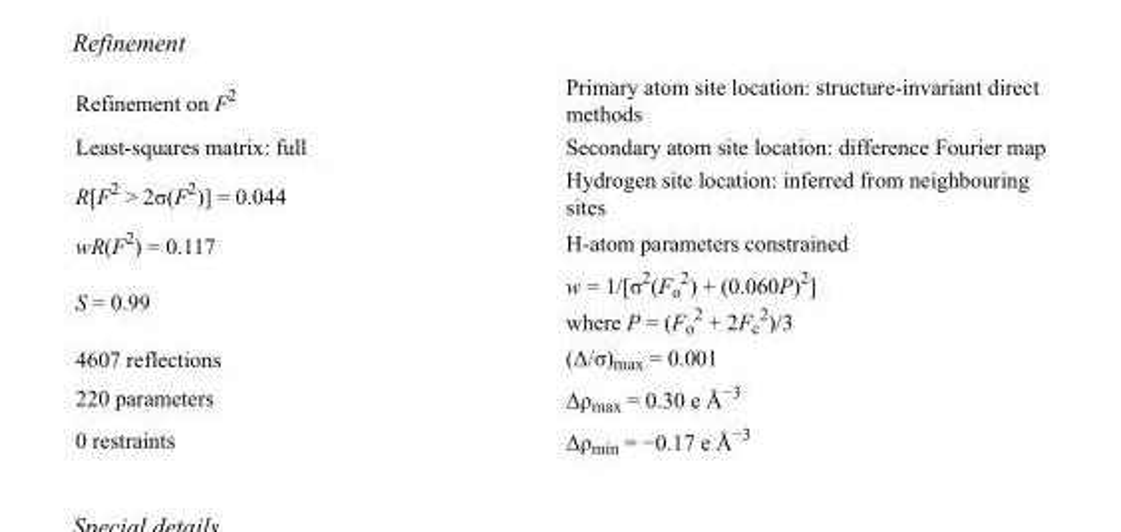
<table><tbody><tr><td>Refinement on F<sup>2</sup></td><td>Primary atom site location: structure-invariant direct methods</td></tr><tr><td>Least-squares matrix: full</td><td>Secondary atom site location: difference Fourier map</td></tr><tr><td>R[F<sup>2</sup> &gt; 2σ(F<sup>2</sup>)] = 0.044</td><td>Hydrogen site location: inferred from neighbouring sites</td></tr><tr><td>wR(F<sup>2</sup>) = 0.117</td><td>H-atom parameters constrained</td></tr><tr><td>S = 0.99</td><td>w = 1/[σ<sup>2</sup>(F<sub>o</sub> <sup>2</sup>) + (0.060P)<sup>2</sup>] where P = (F<sub>o</sub> <sup>2</sup> + 2F<sub>c</sub> <sup>2</sup>)/3</td></tr><tr><td>4607 reflections</td><td>(Δ/σ)<sub>max</sub> = 0.001</td></tr><tr><td>220 parameters</td><td>Δρ<sub>max</sub> = 0.30 e Å<sup>−3</sup></td></tr><tr><td>0 restraints</td><td>Δρ<sub>min</sub> = −0.17 e Å<sup>−3</sup></td></tr></tbody></table>